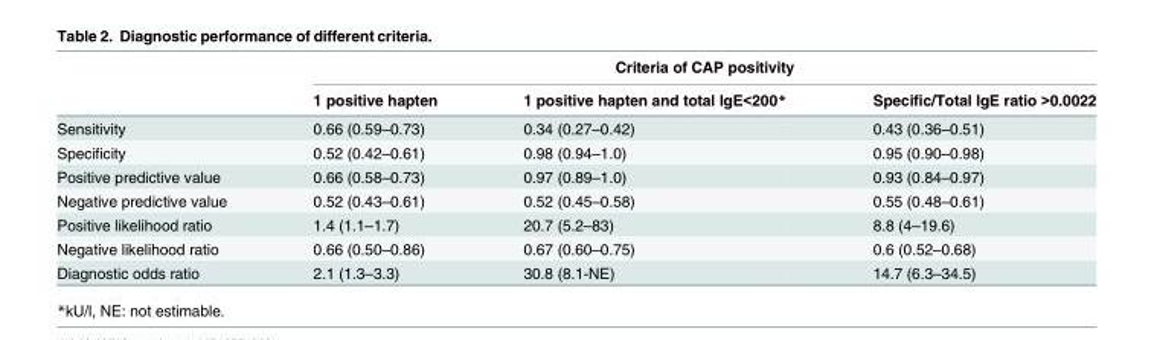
<table><thead><tr><td rowspan="2"></td><td colspan="3">Criteria of CAP positivity</td></tr><tr><td>1 positive hapten</td><td>1 positive hapten and total IgE&lt;200*</td><td>Specific/Total IgE ratio &gt;0.0022</td></tr></thead><tbody><tr><td>Sensitivity</td><td>0.66 (0.59–0.73)</td><td>0.34 (0.27–0.42)</td><td>0.43 (0.36–0.51)</td></tr><tr><td>Specificity</td><td>0.52 (0.42–0.61)</td><td>0.98 (0.94–1.0)</td><td>0.95 (0.90–0.98)</td></tr><tr><td>Positive predictive value</td><td>0.66 (0.58–0.73)</td><td>0.97 (0.89–1.0)</td><td>0.93 (0.84–0.97)</td></tr><tr><td>Negative predictive value</td><td>0.52 (0.43–0.61)</td><td>0.52 (0.45–0.58)</td><td>0.55 (0.48–0.61)</td></tr><tr><td>Positive likelihood ratio</td><td>1.4 (1.1–1.7)</td><td>20.7 (5.2–83)</td><td>8.8 (4–19.6)</td></tr><tr><td>Negative likelihood ratio</td><td>0.66 (0.50–0.86)</td><td>0.67 (0.60–0.75)</td><td>0.6 (0.52–0.68)</td></tr><tr><td>Diagnostic odds ratio</td><td>2.1 (1.3–3.3)</td><td>30.8 (8.1-NE)</td><td>14.7 (6.3–34.5)</td></tr></tbody></table>